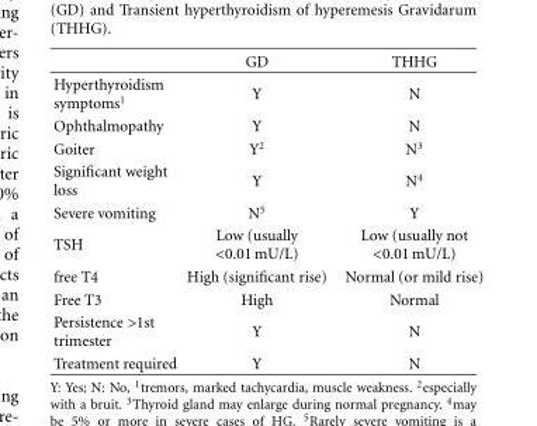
<table><thead><tr><td></td><td>GD</td><td>THHG</td></tr></thead><tbody><tr><td>Hyperthyroidism symptoms<sup>1</sup></td><td>Y</td><td>N</td></tr><tr><td>Ophthalmopathy</td><td>Y</td><td>N</td></tr><tr><td>Goiter</td><td>Y<sup>2</sup></td><td>N<sup>3</sup></td></tr><tr><td>Significant weight loss</td><td>Y</td><td>N<sup>4</sup></td></tr><tr><td>Severe vomiting</td><td>N<sup>5</sup></td><td>Y</td></tr><tr><td>TSH</td><td>Low (usually &lt;0.01 mU/L)</td><td>Low (usually not &lt;0.01 mU/L)</td></tr><tr><td>free T4</td><td>High (significant rise)</td><td>Normal (or mild rise)</td></tr><tr><td>Free T3</td><td>High</td><td>Normal</td></tr><tr><td>Persistence &gt;1st trimester</td><td>Y</td><td>N</td></tr><tr><td>Treatment required</td><td>Y</td><td>N</td></tr></tbody></table>